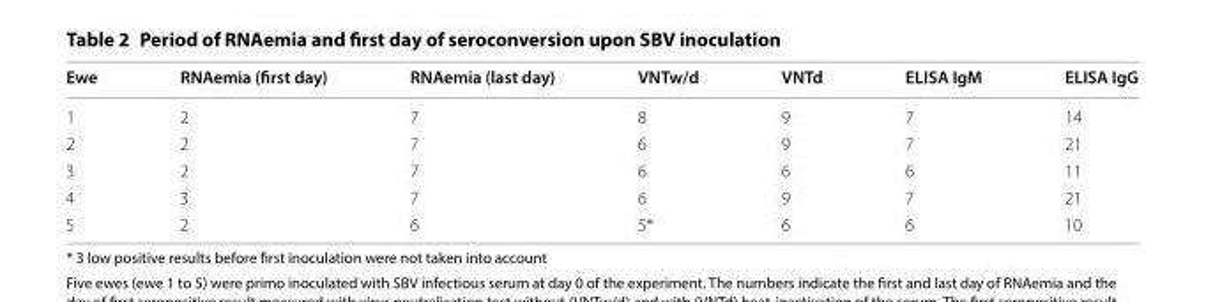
<table><thead><tr><td>Ewe</td><td>RNAemia (first day)</td><td>RNAemia (last day)</td><td>VNTw/d</td><td>VNTd</td><td>ELISA IgM</td><td>ELISA IgG</td></tr></thead><tbody><tr><td>1</td><td>2</td><td>7</td><td>8</td><td>9</td><td>7</td><td>14</td></tr><tr><td>2</td><td>2</td><td>7</td><td>6</td><td>9</td><td>7</td><td>21</td></tr><tr><td>3</td><td>2</td><td>7</td><td>6</td><td>6</td><td>6</td><td>11</td></tr><tr><td>4</td><td>3</td><td>7</td><td>6</td><td>9</td><td>7</td><td>21</td></tr><tr><td>5</td><td>2</td><td>6</td><td>5*</td><td>6</td><td>6</td><td>10</td></tr></tbody></table>